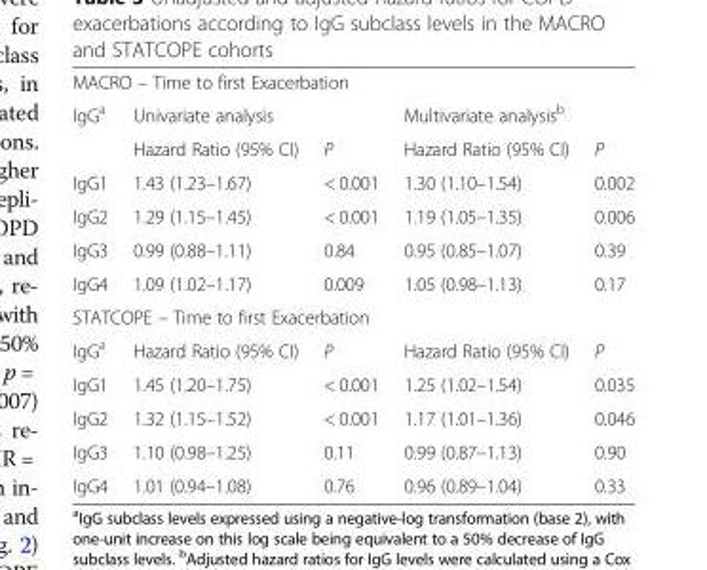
<table><tbody><tr><td colspan="5">MACRO – Time to first Exacerbation</td></tr><tr><td rowspan="2">IgG<sup>a</sup></td><td colspan="2">Univariate analysis</td><td colspan="2">Multivariate analysis<sup>b</sup></td></tr><tr><td>Hazard Ratio (95% CI)</td><td>P</td><td>Hazard Ratio (95% CI)</td><td>P</td></tr><tr><td>IgG1</td><td>1.43 (1.23–1.67)</td><td>&lt; 0.001</td><td>1.30 (1.10–1.54)</td><td>0.002</td></tr><tr><td>IgG2</td><td>1.29 (1.15–1.45)</td><td>&lt; 0.001</td><td>1.19 (1.05–1.35)</td><td>0.006</td></tr><tr><td>IgG3</td><td>0.99 (0.88–1.11)</td><td>0.84</td><td>0.95 (0.85–1.07)</td><td>0.39</td></tr><tr><td>IgG4</td><td>1.09 (1.02–1.17)</td><td>0.009</td><td>1.05 (0.98–1.13)</td><td>0.17</td></tr><tr><td colspan="5">STATCOPE – Time to first Exacerbation</td></tr><tr><td>IgG<sup>a</sup></td><td>Hazard Ratio (95% CI)</td><td>P</td><td>Hazard Ratio (95% CI)</td><td>P</td></tr><tr><td>IgG1</td><td>1.45 (1.20–1.75)</td><td>&lt; 0.001</td><td>1.25 (1.02–1.54)</td><td>0.035</td></tr><tr><td>IgG2</td><td>1.32 (1.15–1.52)</td><td>&lt; 0.001</td><td>1.17 (1.01–1.36)</td><td>0.046</td></tr><tr><td>IgG3</td><td>1.10 (0.98–1.25)</td><td>0.11</td><td>0.99 (0.87–1.13)</td><td>0.90</td></tr><tr><td>IgG4</td><td>1.01 (0.94–1.08)</td><td>0.76</td><td>0.96 (0.89–1.04)</td><td>0.33</td></tr></tbody></table>